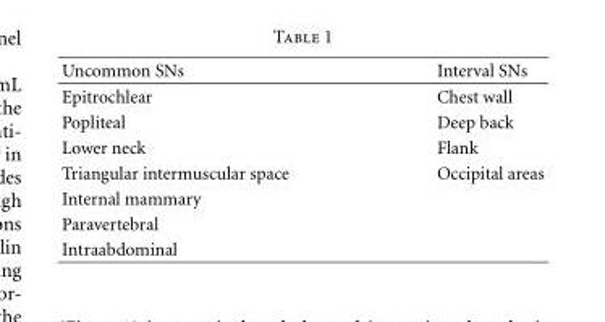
<table><thead><tr><td>Uncommon SNs</td><td>Interval SNs</td></tr></thead><tbody><tr><td>Epitrochlear</td><td>Chest wall</td></tr><tr><td>Popliteal</td><td>Deep back</td></tr><tr><td>Lower neck</td><td>Flank</td></tr><tr><td>Triangular intermuscular space</td><td>Occipital areas</td></tr><tr><td colspan="2">Internal mammary</td></tr><tr><td colspan="2">Paravertebral</td></tr><tr><td>Intraabdominal</td><td></td></tr></tbody></table>